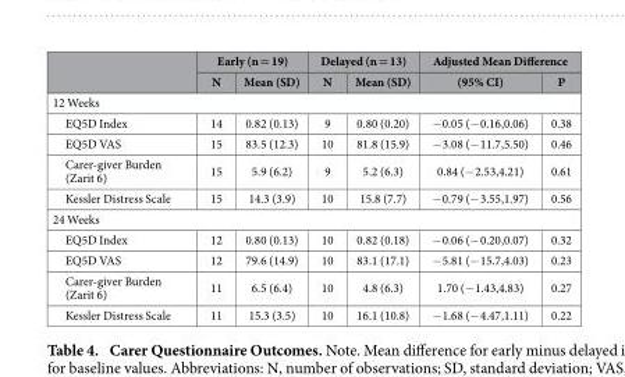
<table><thead><tr><td rowspan="2"></td><td colspan="2">Early (n = 19)</td><td colspan="2">Delayed (n = 13)</td><td colspan="2">Adjusted Mean Difference</td></tr><tr><td>N</td><td>Mean (SD)</td><td>N</td><td>Mean (SD)</td><td>(95% CI)</td><td>P</td></tr></thead><tbody><tr><td colspan="7">12 Weeks</td></tr><tr><td>EQ5D Index</td><td>14</td><td>0.82 (0.13)</td><td>9</td><td>0.80 (0.20)</td><td>− 0.05 (− 0.16,0.06)</td><td>0.38</td></tr><tr><td>EQ5D VAS</td><td>15</td><td>83.5 (12.3)</td><td>10</td><td>81.8 (15.9)</td><td>− 3.08 (− 11.7,5.50)</td><td>0.46</td></tr><tr><td>Carer-giver Burden (Zarit 6)</td><td>15</td><td>5.9 (6.2)</td><td>9</td><td>5.2 (6.3)</td><td>0.84 (− 2.53,4.21)</td><td>0.61</td></tr><tr><td>Kessler Distress Scale</td><td>15</td><td>14.3 (3.9)</td><td>10</td><td>15.8 (7.7)</td><td>− 0.79 (− 3.55,1.97)</td><td>0.56</td></tr><tr><td colspan="7">24 Weeks</td></tr><tr><td>EQ5D Index</td><td>12</td><td>0.80 (0.13)</td><td>10</td><td>0.82 (0.18)</td><td>− 0.06 (− 0.20,0.07)</td><td>0.32</td></tr><tr><td>EQ5D VAS</td><td>12</td><td>79.6 (14.9)</td><td>10</td><td>83.1 (17.1)</td><td>− 5.81 (− 15.7,4.03)</td><td>0.23</td></tr><tr><td>Carer-giver Burden (Zarit 6)</td><td>11</td><td>6.5 (6.4)</td><td>10</td><td>4.8 (6.3)</td><td>1.70 (− 1.43,4.83)</td><td>0.27</td></tr><tr><td>Kessler Distress Scale</td><td>11</td><td>15.3 (3.5)</td><td>10</td><td>16.1 (10.8)</td><td>− 1.68 (− 4.47,1.11)</td><td>0.22</td></tr></tbody></table>